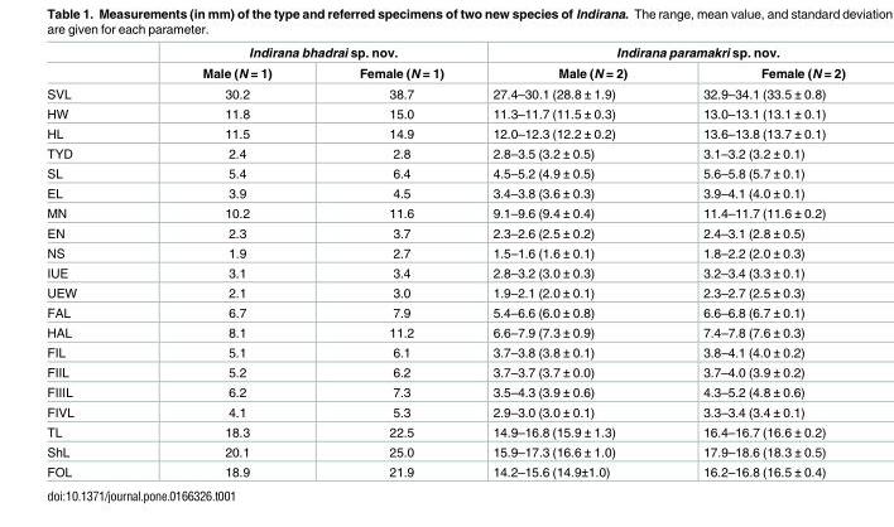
<table><thead><tr><td rowspan="2"></td><td colspan="2">Indirana bhadrai sp. nov.</td><td colspan="2">Indirana paramakri sp. nov.</td></tr><tr><td>Male (N = 1)</td><td>Female (N = 1)</td><td>Male (N = 2)</td><td>Female (N = 2)</td></tr></thead><tbody><tr><td>SVL</td><td>30.2</td><td>38.7</td><td>27.4–30.1 (28.8 ± 1.9)</td><td>32.9–34.1 (33.5 ± 0.8)</td></tr><tr><td>HW</td><td>11.8</td><td>15.0</td><td>11.3–11.7 (11.5 ± 0.3)</td><td>13.0–13.1 (13.1 ± 0.1)</td></tr><tr><td>HL</td><td>11.5</td><td>14.9</td><td>12.0–12.3 (12.2 ± 0.2)</td><td>13.6–13.8 (13.7 ± 0.1)</td></tr><tr><td>TYD</td><td>2.4</td><td>2.8</td><td>2.8–3.5 (3.2 ± 0.5)</td><td>3.1–3.2 (3.2 ± 0.1)</td></tr><tr><td>SL</td><td>5.4</td><td>6.4</td><td>4.5–5.2 (4.9 ± 0.5)</td><td>5.6–5.8 (5.7 ± 0.1)</td></tr><tr><td>EL</td><td>3.9</td><td>4.5</td><td>3.4–3.8 (3.6 ± 0.3)</td><td>3.9–4.1 (4.0 ± 0.1)</td></tr><tr><td>MN</td><td>10.2</td><td>11.6</td><td>9.1–9.6 (9.4 ± 0.4)</td><td>11.4–11.7 (11.6 ± 0.2)</td></tr><tr><td>EN</td><td>2.3</td><td>3.7</td><td>2.3–2.6 (2.5 ± 0.2)</td><td>2.4–3.1 (2.8 ± 0.5)</td></tr><tr><td>NS</td><td>1.9</td><td>2.7</td><td>1.5–1.6 (1.6 ± 0.1)</td><td>1.8–2.2 (2.0 ± 0.3)</td></tr><tr><td>IUE</td><td>3.1</td><td>3.4</td><td>2.8–3.2 (3.0 ± 0.3)</td><td>3.2–3.4 (3.3 ± 0.1)</td></tr><tr><td>UEW</td><td>2.1</td><td>3.0</td><td>1.9–2.1 (2.0 ± 0.1)</td><td>2.3–2.7 (2.5 ± 0.3)</td></tr><tr><td>FAL</td><td>6.7</td><td>7.9</td><td>5.4–6.6 (6.0 ± 0.8)</td><td>6.6–6.8 (6.7 ± 0.1)</td></tr><tr><td>HAL</td><td>8.1</td><td>11.2</td><td>6.6–7.9 (7.3 ± 0.9)</td><td>7.4–7.8 (7.6 ± 0.3)</td></tr><tr><td>FIL</td><td>5.1</td><td>6.1</td><td>3.7–3.8 (3.8 ± 0.1)</td><td>3.8–4.1 (4.0 ± 0.2)</td></tr><tr><td>FIIL</td><td>5.2</td><td>6.2</td><td>3.7–3.7 (3.7 ± 0.0)</td><td>3.7–4.0 (3.9 ± 0.2)</td></tr><tr><td>FIIIL</td><td>6.2</td><td>7.3</td><td>3.5–4.3 (3.9 ± 0.6)</td><td>4.3–5.2 (4.8 ± 0.6)</td></tr><tr><td>FIVL</td><td>4.1</td><td>5.3</td><td>2.9–3.0 (3.0 ± 0.1)</td><td>3.3–3.4 (3.4 ± 0.1)</td></tr><tr><td>TL</td><td>18.3</td><td>22.5</td><td>14.9–16.8 (15.9 ± 1.3)</td><td>16.4–16.7 (16.6 ± 0.2)</td></tr><tr><td>ShL</td><td>20.1</td><td>25.0</td><td>15.9–17.3 (16.6 ± 1.0)</td><td>17.9–18.6 (18.3 ± 0.5)</td></tr><tr><td>FOL</td><td>18.9</td><td>21.9</td><td>14.2–15.6 (14.9±1.0)</td><td>16.2–16.8 (16.5 ± 0.4)</td></tr></tbody></table>